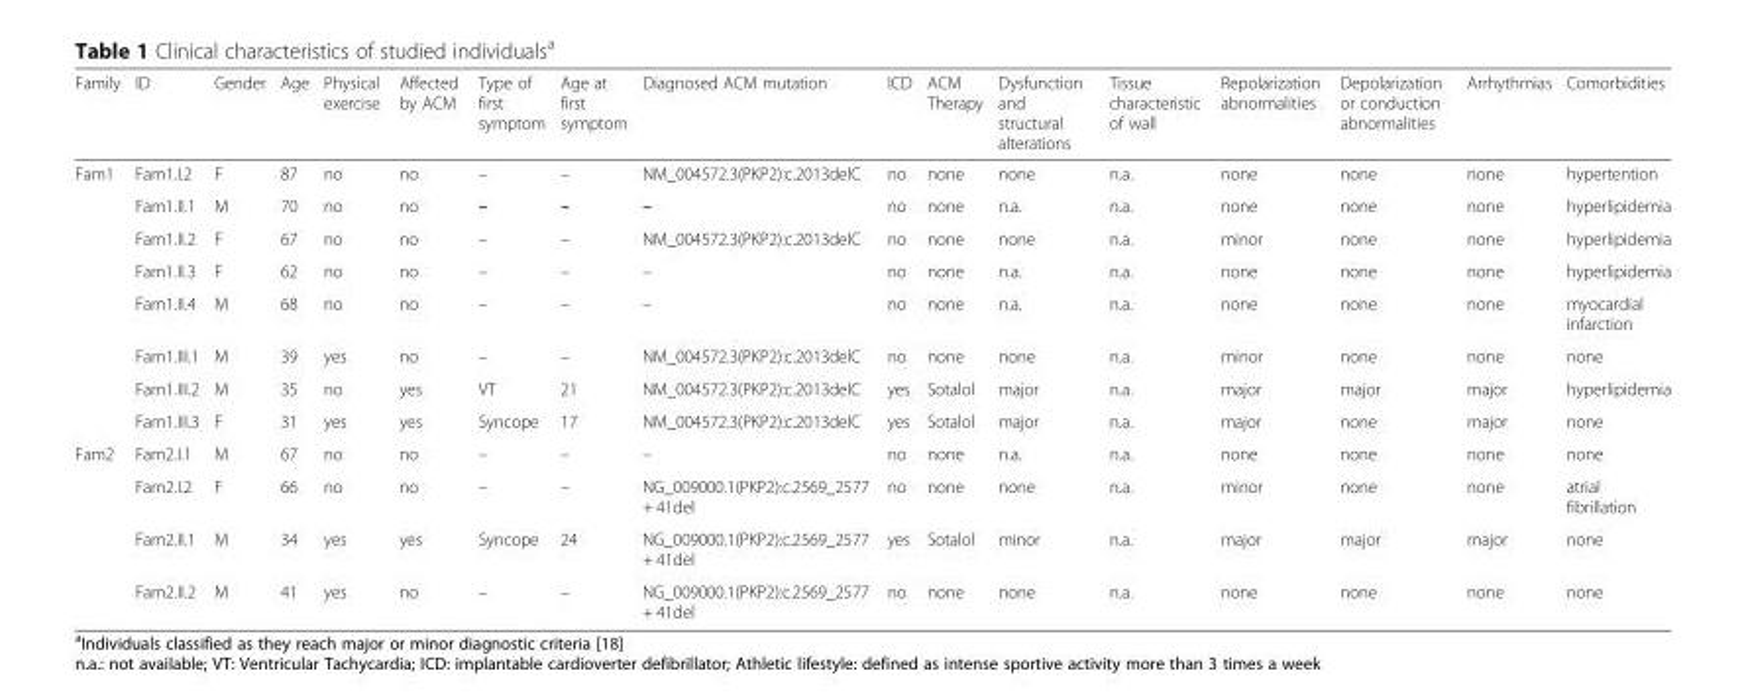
<table><thead><tr><td>Family</td><td>ID</td><td>Gender</td><td>Age</td><td>Physical exercise</td><td>Affected by ACM</td><td>Type of first symptom</td><td>Age at first symptom</td><td>Diagnosed ACM mutation</td><td>ICD</td><td>ACM Therapy</td><td>Dysfunction and structural alterations</td><td>Tissue characteristic of wall</td><td>Repolarization abnormalities</td><td>Depolarization or conduction abnormalities</td><td>Arrhythmias</td><td>Comorbidities</td></tr></thead><tbody><tr><td rowspan="8">Fam1</td><td>Fam1.I.2</td><td>F</td><td>87</td><td>no</td><td>no</td><td>–</td><td>–</td><td>NM_004572.3(PKP2):c.2013delC</td><td>no</td><td>none</td><td>none</td><td>n.a.</td><td>none</td><td>none</td><td>none</td><td>hypertention</td></tr><tr><td>Fam1.II.1</td><td>M</td><td>70</td><td>no</td><td>no</td><td>–</td><td>–</td><td>–</td><td>no</td><td>none</td><td>n.a.</td><td>n.a.</td><td>none</td><td>none</td><td>none</td><td>hyperlipidemia</td></tr><tr><td>Fam1.II.2</td><td>F</td><td>67</td><td>no</td><td>no</td><td>–</td><td>–</td><td>NM_004572.3(PKP2):c.2013delC</td><td>no</td><td>none</td><td>none</td><td>n.a.</td><td>minor</td><td>none</td><td>none</td><td>hyperlipidemia</td></tr><tr><td>Fam1.II.3</td><td>F</td><td>62</td><td>no</td><td>no</td><td>–</td><td>–</td><td>–</td><td>no</td><td>none</td><td>n.a.</td><td>n.a.</td><td>none</td><td>none</td><td>none</td><td>hyperlipidemia</td></tr><tr><td>Fam1.II.4</td><td>M</td><td>68</td><td>no</td><td>no</td><td>–</td><td>–</td><td>–</td><td>no</td><td>none</td><td>n.a.</td><td>n.a.</td><td>none</td><td>none</td><td>none</td><td>myocardial infarction</td></tr><tr><td>Fam1.III.1</td><td>M</td><td>39</td><td>yes</td><td>no</td><td>–</td><td>–</td><td>NM_004572.3(PKP2):c.2013delC</td><td>no</td><td>none</td><td>none</td><td>n.a.</td><td>minor</td><td>none</td><td>none</td><td>none</td></tr><tr><td>Fam1.III.2</td><td>M</td><td>35</td><td>no</td><td>yes</td><td>VT</td><td>21</td><td>NM_004572.3(PKP2):c.2013delC</td><td>yes</td><td>Sotalol</td><td>major</td><td>n.a.</td><td>major</td><td>major</td><td>major</td><td>hyperlipidemia</td></tr><tr><td>Fam1.III.3</td><td>F</td><td>31</td><td>yes</td><td>yes</td><td>Syncope</td><td>17</td><td>NM_004572.3(PKP2):c.2013delC</td><td>yes</td><td>Sotalol</td><td>major</td><td>n.a.</td><td>major</td><td>none</td><td>major</td><td>none</td></tr><tr><td rowspan="4">Fam2</td><td>Fam2.I.1</td><td>M</td><td>67</td><td>no</td><td>no</td><td>–</td><td>–</td><td>–</td><td>no</td><td>none</td><td>n.a.</td><td>n.a.</td><td>none</td><td>none</td><td>none</td><td>none</td></tr><tr><td>Fam2.I.2</td><td>F</td><td>66</td><td>no</td><td>no</td><td>–</td><td>–</td><td>NG_009000.1(PKP2):c.2569_2577 + 41del</td><td>no</td><td>none</td><td>none</td><td>n.a.</td><td>minor</td><td>none</td><td>none</td><td>atrial fibrillation</td></tr><tr><td>Fam2.II.1</td><td>M</td><td>34</td><td>yes</td><td>yes</td><td>Syncope</td><td>24</td><td>NG_009000.1(PKP2):c.2569_2577 + 41del</td><td>yes</td><td>Sotalol</td><td>minor</td><td>n.a.</td><td>major</td><td>major</td><td>major</td><td>none</td></tr><tr><td>Fam2.II.2</td><td>M</td><td>41</td><td>yes</td><td>no</td><td>–</td><td>–</td><td>NG_009000.1(PKP2):c.2569_2577 + 41del</td><td>no</td><td>none</td><td>none</td><td>n.a.</td><td>none</td><td>none</td><td>none</td><td>none</td></tr></tbody></table>